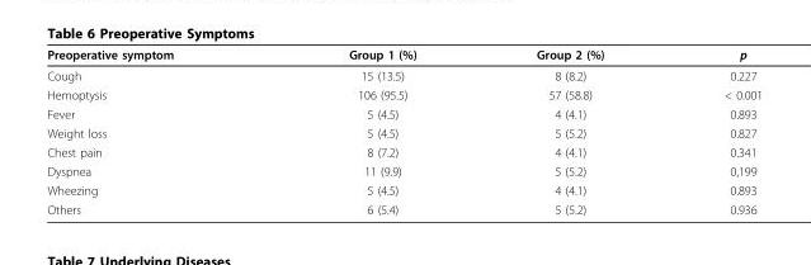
<table><thead><tr><td>Preoperative symptom</td><td>Group 1 (%)</td><td>Group 2 (%)</td><td>p</td></tr></thead><tbody><tr><td>Cough</td><td>15 (13.5)</td><td>8 (8.2)</td><td>0.227</td></tr><tr><td>Hemoptysis</td><td>106 (95.5)</td><td>57 (58.8)</td><td>&lt; 0.001</td></tr><tr><td>Fever</td><td>5 (4.5)</td><td>4 (4.1)</td><td>0.893</td></tr><tr><td>Weight loss</td><td>5 (4.5)</td><td>5 (5.2)</td><td>0.827</td></tr><tr><td>Chest pain</td><td>8 (7.2)</td><td>4 (4.1)</td><td>0.341</td></tr><tr><td>Dyspnea</td><td>11 (9.9)</td><td>5 (5.2)</td><td>0,199</td></tr><tr><td>Wheezing</td><td>5 (4.5)</td><td>4 (4.1)</td><td>0.893</td></tr><tr><td>Others</td><td>6 (5.4)</td><td>5 (5.2)</td><td>0.936</td></tr></tbody></table>